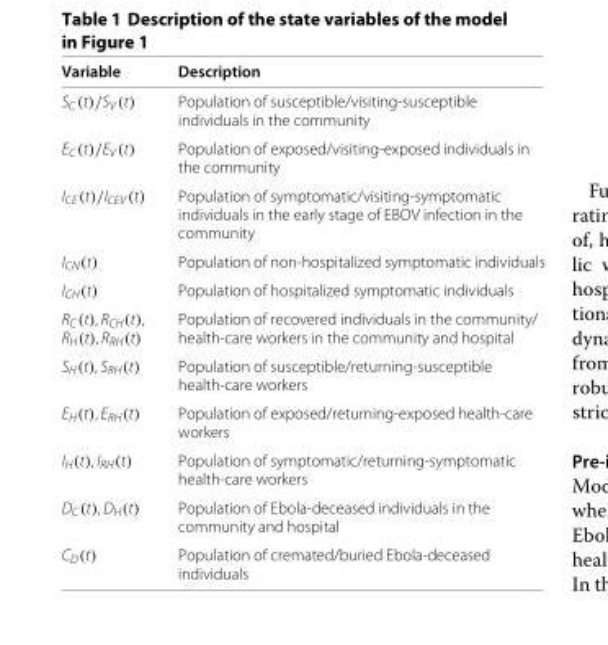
<table><thead><tr><td>Variable</td><td>Description</td></tr></thead><tbody><tr><td>S<sub>C</sub>(t)/S<sub>V</sub>(t)</td><td>Population of susceptible/visiting-susceptible individuals in the community</td></tr><tr><td>E<sub>C</sub>(t)/E<sub>V</sub>(t)</td><td>Population of exposed/visiting-exposed individuals in the community</td></tr><tr><td>I<sub>CE</sub>(t)/I<sub>CEV</sub>(t)</td><td>Population of symptomatic/visiting-symptomatic individuals in the early stage of EBOV infection in the community</td></tr><tr><td>I<sub>CN</sub>(t)</td><td>Population of non-hospitalized symptomatic individuals</td></tr><tr><td>I<sub>CH</sub>(t)</td><td>Population of hospitalized symptomatic individuals</td></tr><tr><td>R<sub>C</sub>(t), R<sub>CH</sub>(t), R<sub>H</sub>(t), R<sub>RH</sub>(t)</td><td>Population of recovered individuals in the community/ health-care workers in the community and hospital</td></tr><tr><td>S<sub>H</sub>(t), S<sub>RH</sub>(t)</td><td>Population of susceptible/returning-susceptible health-care workers</td></tr><tr><td>E<sub>H</sub>(t), E<sub>RH</sub>(t)</td><td>Population of exposed/returning-exposed health-care workers</td></tr><tr><td>I<sub>H</sub>(t), I<sub>RH</sub>(t)</td><td>Population of symptomatic/returning-symptomatic health-care workers</td></tr><tr><td>D<sub>C</sub>(t), D<sub>H</sub>(t)</td><td>Population of Ebola-deceased individuals in the community and hospital</td></tr><tr><td>C<sub>D</sub>(t)</td><td>Population of cremated/buried Ebola-deceased individuals</td></tr></tbody></table>